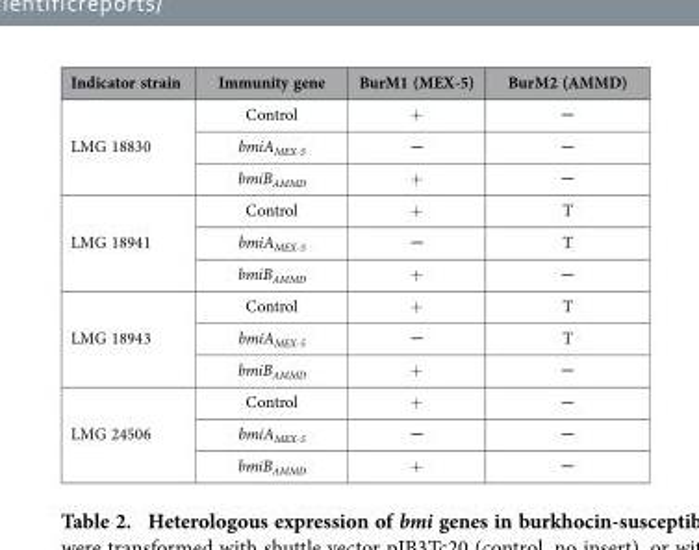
<table><thead><tr><td>Indicator strain</td><td>Immunity gene</td><td>BurM1 (MEX-5)</td><td>BurM2 (AMMD)</td></tr></thead><tbody><tr><td rowspan="3">LMG 18830</td><td>Control</td><td>+</td><td>─</td></tr><tr><td>bmiA<sub>MEX-5</sub></td><td>─</td><td>─</td></tr><tr><td>bmiB<sub>AMMD</sub></td><td>+</td><td>─</td></tr><tr><td rowspan="3">LMG 18941</td><td>Control</td><td>+</td><td>T</td></tr><tr><td>bmiA<sub>MEX-5</sub></td><td>─</td><td>T</td></tr><tr><td>bmiB<sub>AMMD</sub></td><td>+</td><td>─</td></tr><tr><td rowspan="3">LMG 18943</td><td>Control</td><td>+</td><td>T</td></tr><tr><td>bmiA<sub>MEX-5</sub></td><td>─</td><td>T</td></tr><tr><td>bmiB<sub>AMMD</sub></td><td>+</td><td>─</td></tr><tr><td rowspan="3">LMG 24506</td><td>Control</td><td>+</td><td>─</td></tr><tr><td>bmiA<sub>MEX-5</sub></td><td>─</td><td>─</td></tr><tr><td>bmiB<sub>AMMD</sub></td><td>+</td><td>─</td></tr></tbody></table>